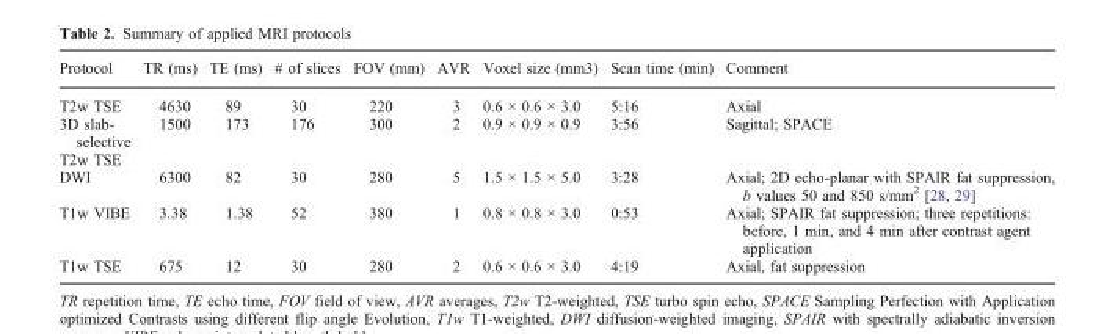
<table><thead><tr><td>Protocol</td><td>TR (ms)</td><td>TE (ms)</td><td># of slices</td><td>FOV (mm)</td><td>AVR</td><td>Voxel size (mm3)</td><td>Scan time (min)</td><td>Comment</td></tr></thead><tbody><tr><td>T2w TSE</td><td>4630</td><td>89</td><td>30</td><td>220</td><td>3</td><td>0.6 × 0.6 × 3.0</td><td>5:16</td><td>Axial</td></tr><tr><td>3D slab- selective T2w TSE</td><td>1500</td><td>173</td><td>176</td><td>300</td><td>2</td><td>0.9 × 0.9 × 0.9</td><td>3:56</td><td>Sagittal; SPACE</td></tr><tr><td>DWI</td><td>6300</td><td>82</td><td>30</td><td>280</td><td>5</td><td>1.5 × 1.5 × 5.0</td><td>3:28</td><td>Axial; 2D echo-planar with SPAIR fat suppression, b values 50 and 850 s/mm<sup>2</sup> [28, 29]</td></tr><tr><td>T1w VIBE</td><td>3.38</td><td>1.38</td><td>52</td><td>380</td><td>1</td><td>0.8 × 0.8 × 3.0</td><td>0:53</td><td>Axial; SPAIR fat suppression; three repetitions: before, 1 min, and 4 min after contrast agent application</td></tr><tr><td>T1w TSE</td><td>675</td><td>12</td><td>30</td><td>280</td><td>2</td><td>0.6 × 0.6 × 3.0</td><td>4:19</td><td>Axial, fat suppression</td></tr></tbody></table>